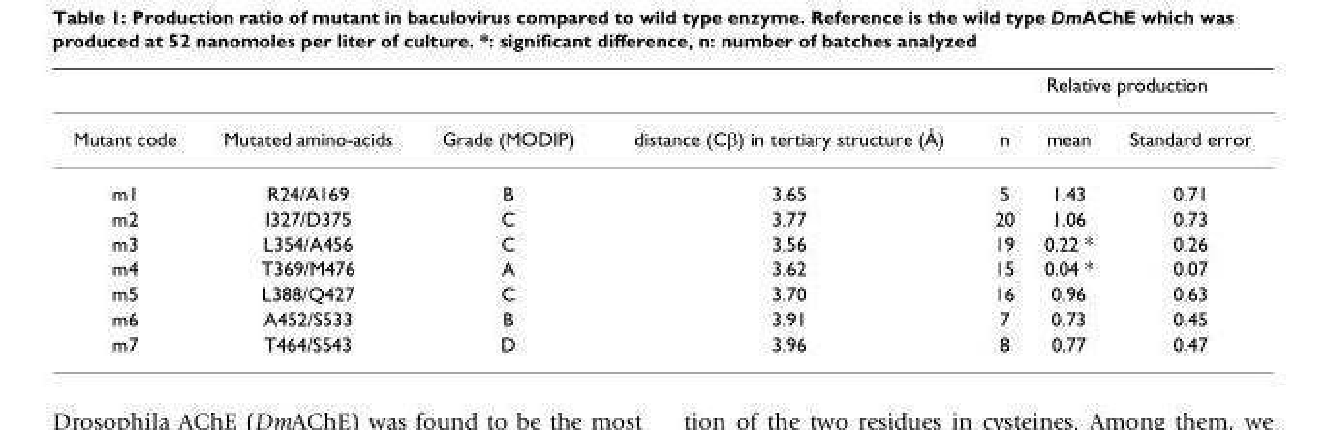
<table><thead><tr><td rowspan="2">Mutant code</td><td rowspan="2">Mutated amino-acids</td><td rowspan="2">Grade (MODIP)</td><td rowspan="2">distance (Cβ) in tertiary structure (Å)</td><td colspan="3">Relative production</td></tr><tr><td>n</td><td>mean</td><td>Standard error</td></tr></thead><tbody><tr><td>m1</td><td>R24/A169</td><td>B</td><td>3.65</td><td>5</td><td>1.43</td><td>0.71</td></tr><tr><td>m2</td><td>I327/D375</td><td>C</td><td>3.77</td><td>20</td><td>1.06</td><td>0.73</td></tr><tr><td>m3</td><td>L354/A456</td><td>C</td><td>3.56</td><td>19</td><td>0.22 *</td><td>0.26</td></tr><tr><td>m4</td><td>T369/M476</td><td>A</td><td>3.62</td><td>15</td><td>0.04 *</td><td>0.07</td></tr><tr><td>m5</td><td>L388/Q427</td><td>C</td><td>3.70</td><td>16</td><td>0.96</td><td>0.63</td></tr><tr><td>m6</td><td>A452/S533</td><td>B</td><td>3.91</td><td>7</td><td>0.73</td><td>0.45</td></tr><tr><td>m7</td><td>T464/S543</td><td>D</td><td>3.96</td><td>8</td><td>0.77</td><td>0.47</td></tr></tbody></table>